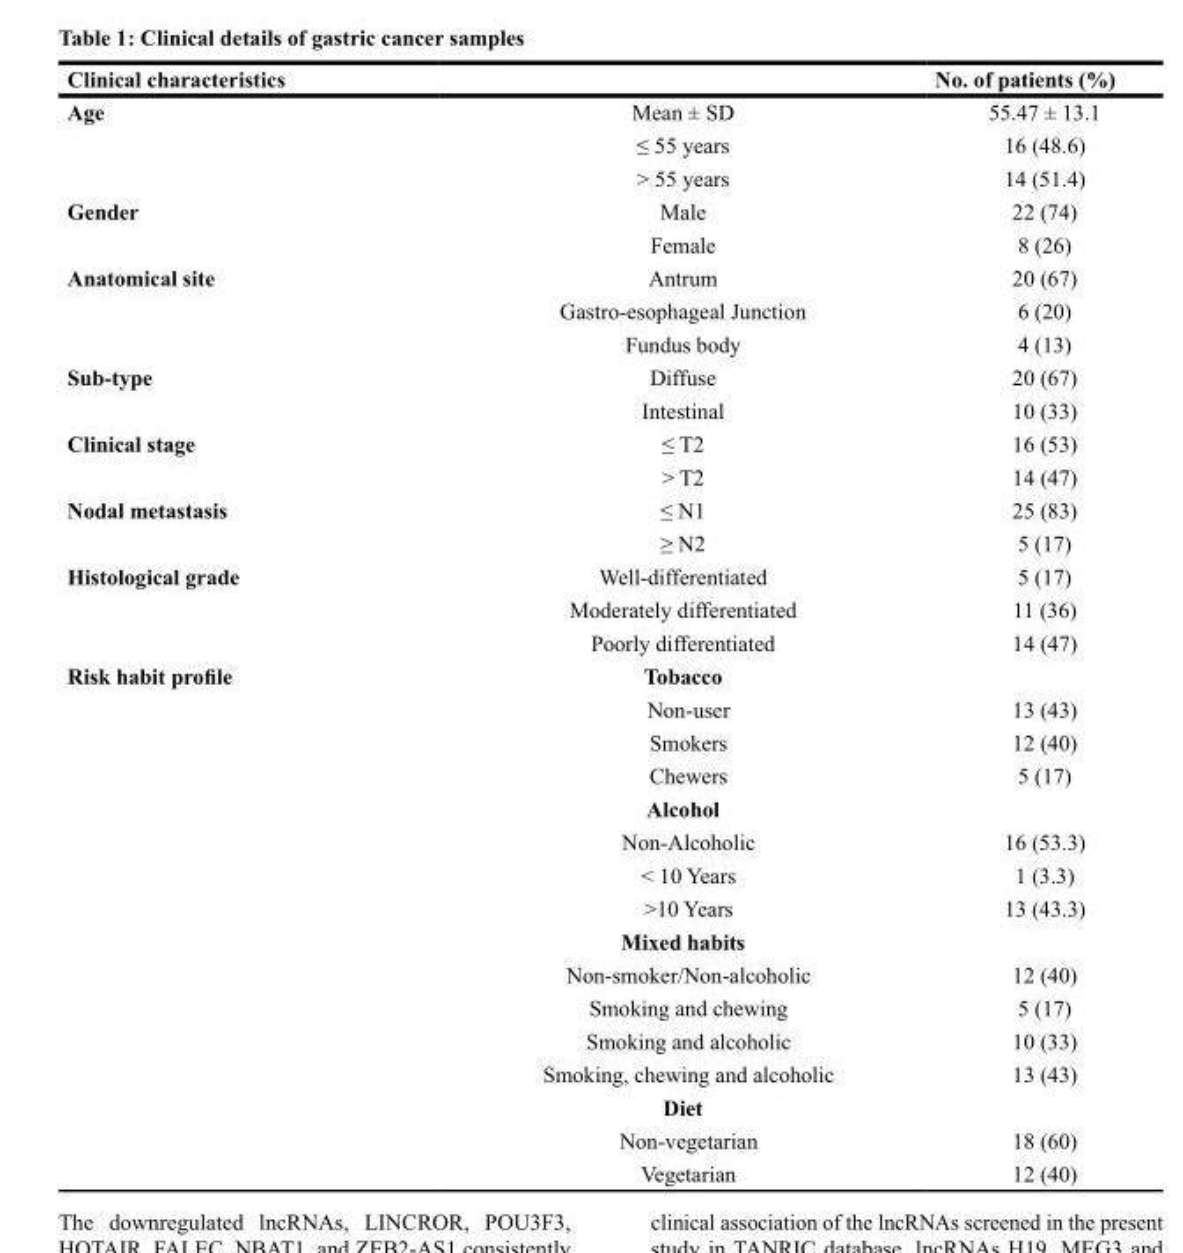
<table><thead><tr><td>Clinical characteristics</td><td></td><td>No. of patients (%)</td></tr></thead><tbody><tr><td rowspan="3">Age</td><td>Mean ± SD</td><td>55.47 ± 13.1</td></tr><tr><td>≤ 55 years</td><td>16 (48.6)</td></tr><tr><td>&gt; 55 years</td><td>14 (51.4)</td></tr><tr><td rowspan="2">Gender</td><td>Male</td><td>22 (74)</td></tr><tr><td>Female</td><td>8 (26)</td></tr><tr><td rowspan="3">Anatomical site</td><td>Antrum</td><td>20 (67)</td></tr><tr><td>Gastro-esophageal Junction</td><td>6 (20)</td></tr><tr><td>Fundus body</td><td>4 (13)</td></tr><tr><td rowspan="2">Sub-type</td><td>Diffuse</td><td>20 (67)</td></tr><tr><td>Intestinal</td><td>10 (33)</td></tr><tr><td rowspan="2">Clinical stage</td><td>≤ T2</td><td>16 (53)</td></tr><tr><td>&gt; T2</td><td>14 (47)</td></tr><tr><td rowspan="2">Nodal metastasis</td><td>≤ N1</td><td>25 (83)</td></tr><tr><td>≥ N2</td><td>5 (17)</td></tr><tr><td rowspan="3">Histological grade</td><td>Well-differentiated</td><td>5 (17)</td></tr><tr><td>Moderately differentiated</td><td>11 (36)</td></tr><tr><td>Poorly differentiated</td><td>14 (47)</td></tr><tr><td rowspan="16">Risk habit profile</td><td>Tobacco</td><td></td></tr><tr><td>Non-user</td><td>13 (43)</td></tr><tr><td>Smokers</td><td>12 (40)</td></tr><tr><td>Chewers</td><td>5 (17)</td></tr><tr><td>Alcohol</td><td></td></tr><tr><td>Non-Alcoholic</td><td>16 (53.3)</td></tr><tr><td>&lt; 10 Years</td><td>1 (3.3)</td></tr><tr><td>&gt;10 Years</td><td>13 (43.3)</td></tr><tr><td>Mixed habits</td><td></td></tr><tr><td>Non-smoker/Non-alcoholic</td><td>12 (40)</td></tr><tr><td>Smoking and chewing</td><td>5 (17)</td></tr><tr><td>Smoking and alcoholic</td><td>10 (33)</td></tr><tr><td>Smoking, chewing and alcoholic</td><td>13 (43)</td></tr><tr><td>Diet</td><td></td></tr><tr><td>Non-vegetarian</td><td>18 (60)</td></tr><tr><td>Vegetarian</td><td>12 (40)</td></tr></tbody></table>